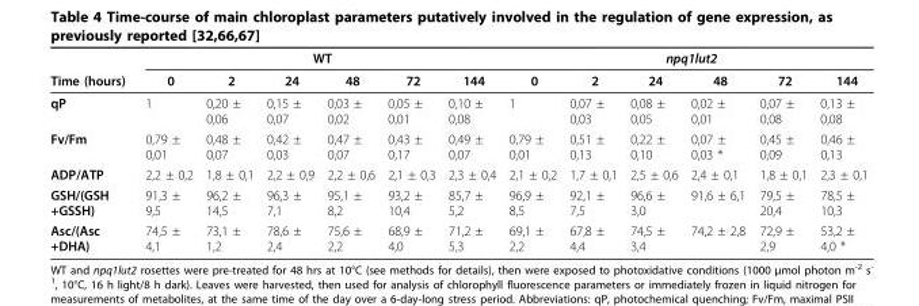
<table><thead><tr><td rowspan="2">Time (hours)</td><td colspan="6">WT</td><td colspan="6">npq1lut2</td></tr><tr><td>0</td><td>2</td><td>24</td><td>48</td><td>72</td><td>144</td><td>0</td><td>2</td><td>24</td><td>48</td><td>72</td><td>144</td></tr></thead><tbody><tr><td>qP</td><td>1</td><td>0,20 ± 0,06</td><td>0,15 ± 0,07</td><td>0,03 ± 0,02</td><td>0,05 ± 0,01</td><td>0,10 ± 0,08</td><td>1</td><td>0,07 ± 0,03</td><td>0,08 ± 0,05</td><td>0,02 ± 0,01</td><td>0,07 ± 0,08</td><td>0,13 ± 0,08</td></tr><tr><td>Fv/Fm</td><td>0,79 ± 0,01</td><td>0,48 ± 0,07</td><td>0,42 ± 0,03</td><td>0,47 ± 0,07</td><td>0,43 ± 0,17</td><td>0,49 ± 0,07</td><td>0,79 ± 0,01</td><td>0,51 ± 0,13</td><td>0,22 ± 0,10</td><td>0,07 ± 0,03 *</td><td>0,45 ± 0,09</td><td>0,46 ± 0,13</td></tr><tr><td>ADP/ATP</td><td>2,2 ± 0,2</td><td>1,8 ± 0,1</td><td>2,2 ± 0,9</td><td>2,2 ± 0,6</td><td>2,1 ± 0,3</td><td>2,3 ± 0,4</td><td>2,1 ± 0,2</td><td>1,7 ± 0,1</td><td>2,5 ± 0,6</td><td>2,4 ± 0,1</td><td>1,8 ± 0,1</td><td>2,3 ± 0,1</td></tr><tr><td>GSH/(GSH +GSSH)</td><td>91,3 ± 9,5</td><td>96,2 ± 14,5</td><td>96,3 ± 7,1</td><td>95,1 ± 8,2</td><td>93,2 ± 10,4</td><td>85,7 ± 5,2</td><td>96,9 ± 8,5</td><td>92,1 ± 7,5</td><td>96,6 ± 3,0</td><td>91,6 ± 6,1</td><td>79,5 ± 20,4</td><td>78,5 ± 10,3</td></tr><tr><td>Asc/(Asc +DHA)</td><td>74,5 ± 4,1</td><td>73,1 ± 1,2</td><td>78,6 ± 2,4</td><td>75,6 ± 2,2</td><td>68,9 ± 4,0</td><td>71,2 ± 5,3</td><td>69,1 ± 2,2</td><td>67,8 ± 4,4</td><td>74,5 ± 3,4</td><td>74,2 ± 2,8</td><td>72,9 ± 2,9</td><td>53,2 ± 4,0 *</td></tr></tbody></table>